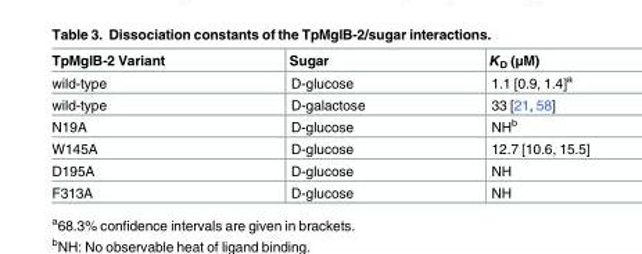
<table><thead><tr><td>TpMglB-2 Variant</td><td>Sugar</td><td>K<sub>D</sub> (μM)</td></tr></thead><tbody><tr><td>wild-type</td><td>D-glucose</td><td>1.1 [0.9, 1.4]<sup>a</sup></td></tr><tr><td>wild-type</td><td>D-galactose</td><td>33 [21, 58]</td></tr><tr><td>N19A</td><td>D-glucose</td><td>NH<sup>b</sup></td></tr><tr><td>W145A</td><td>D-glucose</td><td>12.7 [10.6, 15.5]</td></tr><tr><td>D195A</td><td>D-glucose</td><td>NH</td></tr><tr><td>F313A</td><td>D-glucose</td><td>NH</td></tr></tbody></table>